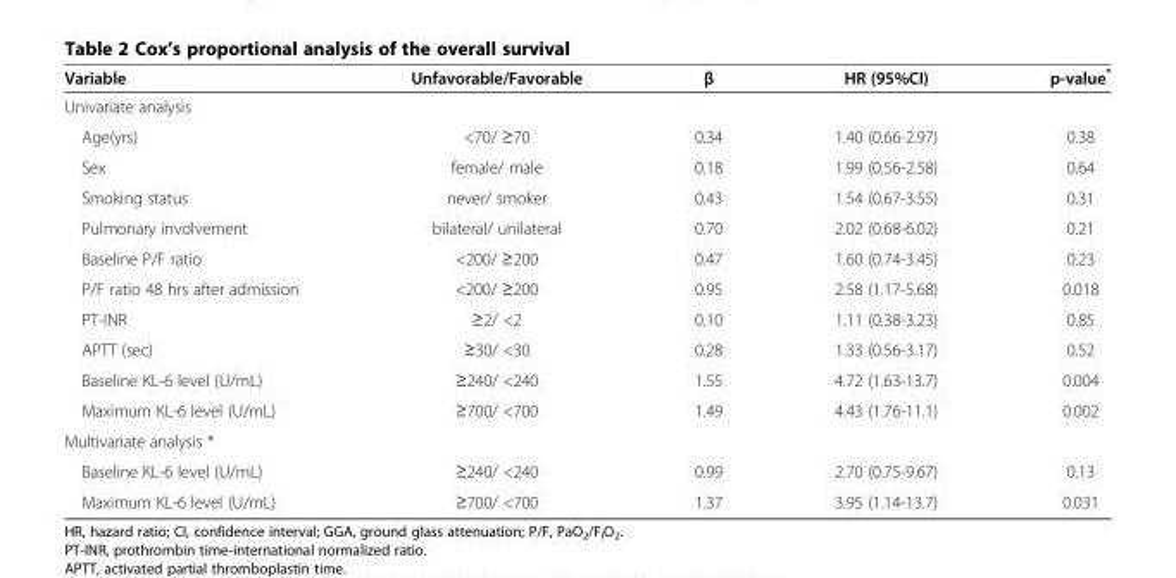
<table><thead><tr><td>Variable</td><td>Unfavorable/Favorable</td><td>β</td><td>HR (95%CI)</td><td>p-value*</td></tr></thead><tbody><tr><td colspan="5">Univariate analysis</td></tr><tr><td>Age(yrs)</td><td>&lt;70/ ≥70</td><td>0.34</td><td>1.40 (0.66-2.97)</td><td>0.38</td></tr><tr><td>Sex</td><td>female/ male</td><td>0.18</td><td>1.99 (0.56-2.58)</td><td>0.64</td></tr><tr><td>Smoking status</td><td>never/ smoker</td><td>0.43</td><td>1.54 (0.67-3.55)</td><td>0.31</td></tr><tr><td>Pulmonary involvement</td><td>bilateral/ unilateral</td><td>0.70</td><td>2.02 (0.68-6.02)</td><td>0.21</td></tr><tr><td>Baseline P/F ratio</td><td>&lt;200/ ≥200</td><td>0.47</td><td>1.60 (0.74-3.45)</td><td>0.23</td></tr><tr><td>P/F ratio 48 hrs after admission</td><td>&lt;200/ ≥200</td><td>0.95</td><td>2.58 (1.17-5.68)</td><td>0.018</td></tr><tr><td>PT-INR</td><td>≥2/ &lt;2</td><td>0.10</td><td>1.11 (0.38-3.23)</td><td>0.85</td></tr><tr><td>APTT (sec)</td><td>≥30/ &lt;30</td><td>0.28</td><td>1.33 (0.56-3.17)</td><td>0.52</td></tr><tr><td>Baseline KL-6 level (U/mL)</td><td>≥240/ &lt;240</td><td>1.55</td><td>4.72 (1.63-13.7)</td><td>0.004</td></tr><tr><td>Maximum KL-6 level (U/mL)</td><td>≥700/ &lt;700</td><td>1.49</td><td>4.43 (1.76-11.1)</td><td>0.002</td></tr><tr><td colspan="5">Multivariate analysis *</td></tr><tr><td>Baseline KL-6 level (U/mL)</td><td>≥240/ &lt;240</td><td>0.99</td><td>2.70 (0.75-9.67)</td><td>0.13</td></tr><tr><td>Maximum KL-6 level (U/mL)</td><td>≥700/ &lt;700</td><td>1.37</td><td>3.95 (1.14-13.7)</td><td>0.031</td></tr></tbody></table>